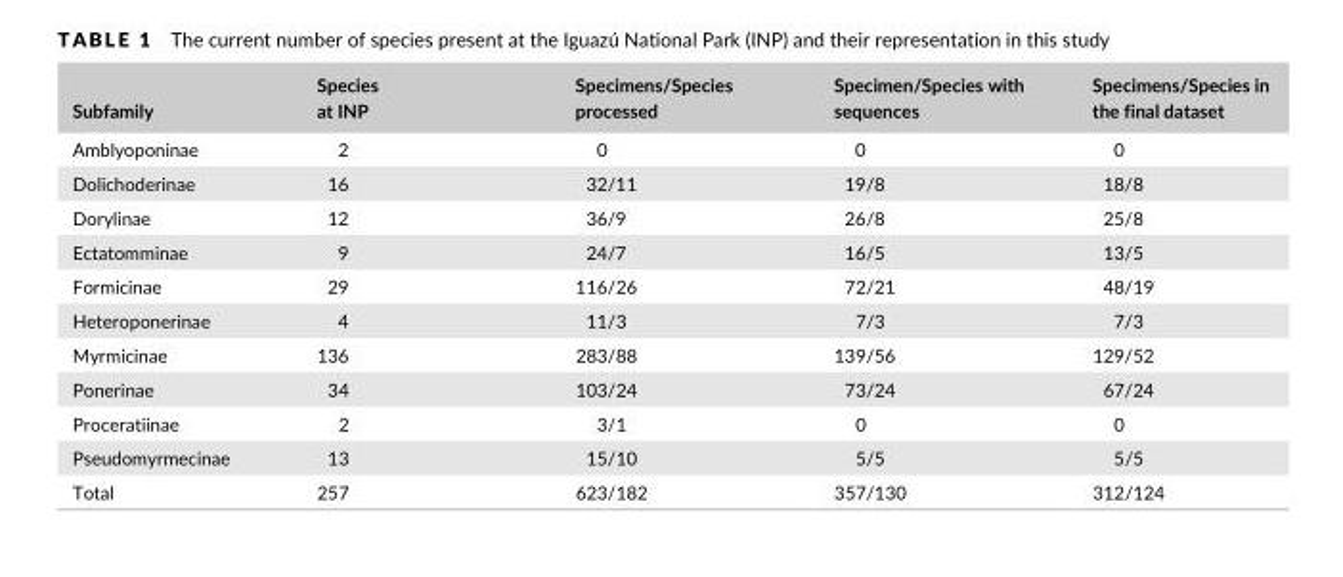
<table><thead><tr><td>Subfamily</td><td>Species at INP</td><td>Specimens/Species processed</td><td>Specimen/Species with sequences</td><td>Specimens/Species in the final dataset</td></tr></thead><tbody><tr><td>Amblyoponinae</td><td>2</td><td>0</td><td>0</td><td>0</td></tr><tr><td>Dolichoderinae</td><td>16</td><td>32/11</td><td>19/8</td><td>18/8</td></tr><tr><td>Dorylinae</td><td>12</td><td>36/9</td><td>26/8</td><td>25/8</td></tr><tr><td>Ectatomminae</td><td>9</td><td>24/7</td><td>16/5</td><td>13/5</td></tr><tr><td>Formicinae</td><td>29</td><td>116/26</td><td>72/21</td><td>48/19</td></tr><tr><td>Heteroponerinae</td><td>4</td><td>11/3</td><td>7/3</td><td>7/3</td></tr><tr><td>Myrmicinae</td><td>136</td><td>283/88</td><td>139/56</td><td>129/52</td></tr><tr><td>Ponerinae</td><td>34</td><td>103/24</td><td>73/24</td><td>67/24</td></tr><tr><td>Proceratiinae</td><td>2</td><td>3/1</td><td>0</td><td>0</td></tr><tr><td>Pseudomyrmecinae</td><td>13</td><td>15/10</td><td>5/5</td><td>5/5</td></tr><tr><td>Total</td><td>257</td><td>623/182</td><td>357/130</td><td>312/124</td></tr></tbody></table>